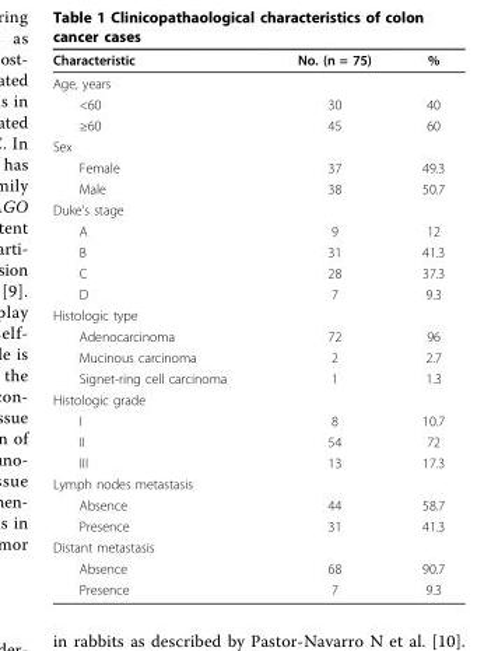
<table><thead><tr><td>Characteristic</td><td>No. (n = 75)</td><td>%</td></tr></thead><tbody><tr><td colspan="3">Age, years</td></tr><tr><td>&lt;60</td><td>30</td><td>40</td></tr><tr><td>≥60</td><td>45</td><td>60</td></tr><tr><td colspan="3">Sex</td></tr><tr><td>Female</td><td>37</td><td>49.3</td></tr><tr><td>Male</td><td>38</td><td>50.7</td></tr><tr><td colspan="3">Duke’s stage</td></tr><tr><td>A</td><td>9</td><td>12</td></tr><tr><td>B</td><td>31</td><td>41.3</td></tr><tr><td>C</td><td>28</td><td>37.3</td></tr><tr><td>D</td><td>7</td><td>9.3</td></tr><tr><td colspan="3">Histologic type</td></tr><tr><td>Adenocarcinoma</td><td>72</td><td>96</td></tr><tr><td>Mucinous carcinoma</td><td>2</td><td>2.7</td></tr><tr><td>Signet-ring cell carcinoma</td><td>1</td><td>1.3</td></tr><tr><td colspan="3">Histologic grade</td></tr><tr><td>I</td><td>8</td><td>10.7</td></tr><tr><td>II</td><td>54</td><td>72</td></tr><tr><td>III</td><td>13</td><td>17.3</td></tr><tr><td colspan="3">Lymph nodes metastasis</td></tr><tr><td>Absence</td><td>44</td><td>58.7</td></tr><tr><td>Presence</td><td>31</td><td>41.3</td></tr><tr><td colspan="3">Distant metastasis</td></tr><tr><td>Absence</td><td>68</td><td>90.7</td></tr><tr><td>Presence</td><td>7</td><td>9.3</td></tr></tbody></table>